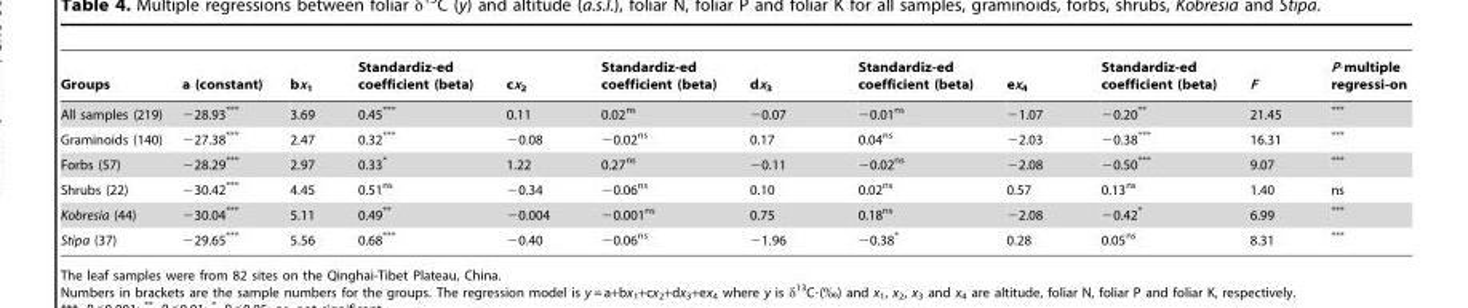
<table><thead><tr><td>Groups</td><td>a (constant)</td><td>bx<sub>1</sub></td><td>Standardiz-ed coefficient (beta)</td><td>cx<sub>2</sub></td><td>Standardiz-ed coefficient (beta)</td><td>dx<sub>3</sub></td><td>Standardiz-ed coefficient (beta)</td><td>ex<sub>4</sub></td><td>Standardiz-ed coefficient (beta)</td><td>F</td><td>P⋅multiple regressi-on</td></tr></thead><tbody><tr><td>All samples (219)</td><td>−28.93***</td><td>3.69</td><td>0.45***</td><td>0.11</td><td>0.02<sup>ns</sup></td><td>−0.07</td><td>−0.01<sup>ns</sup></td><td>−1.07</td><td>−0.20**</td><td>21.45</td><td>***</td></tr><tr><td>Graminoids (140)</td><td>−27.38***</td><td>2.47</td><td>0.32***</td><td>−0.08</td><td>−0.02<sup>ns</sup></td><td>0.17</td><td>0.04<sup>ns</sup></td><td>−2.03</td><td>−0.38***</td><td>16.31</td><td>***</td></tr><tr><td>Forbs (57)</td><td>−28.29***</td><td>2.97</td><td>0.33*</td><td>1.22</td><td>0.27<sup>ns</sup></td><td>−0.11</td><td>−0.02<sup>ns</sup></td><td>−2.08</td><td>−0.50***</td><td>9.07</td><td>***</td></tr><tr><td>Shrubs (22)</td><td>−30.42***</td><td>4.45</td><td>0.51<sup>ns</sup></td><td>−0.34</td><td>−0.06<sup>ns</sup></td><td>0.10</td><td>0.02<sup>ns</sup></td><td>0.57</td><td>0.13<sup>ns</sup></td><td>1.40</td><td>ns</td></tr><tr><td>Kobresia (44)</td><td>−30.04***</td><td>5.11</td><td>0.49**</td><td>−0.004</td><td>−0.001<sup>ns</sup></td><td>0.75</td><td>0.18<sup>ns</sup></td><td>−2.08</td><td>−0.42*</td><td>6.99</td><td>***</td></tr><tr><td>Stipa (37)</td><td>−29.65***</td><td>5.56</td><td>0.68***</td><td>−0.40</td><td>−0.06<sup>ns</sup></td><td>−1.96</td><td>−0.38*</td><td>0.28</td><td>0.05<sup>ns</sup></td><td>8.31</td><td>***</td></tr></tbody></table>